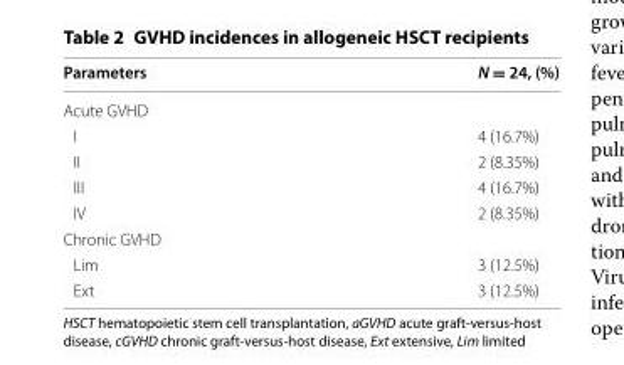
<table><thead><tr><td>Parameters</td><td>N = 24, (%)</td></tr></thead><tbody><tr><td colspan="2">Acute GVHD</td></tr><tr><td>I</td><td>4 (16.7%)</td></tr><tr><td>II</td><td>2 (8.35%)</td></tr><tr><td>III</td><td>4 (16.7%)</td></tr><tr><td>IV</td><td>2 (8.35%)</td></tr><tr><td colspan="2">Chronic GVHD</td></tr><tr><td>Lim</td><td>3 (12.5%)</td></tr><tr><td>Ext</td><td>3 (12.5%)</td></tr></tbody></table>